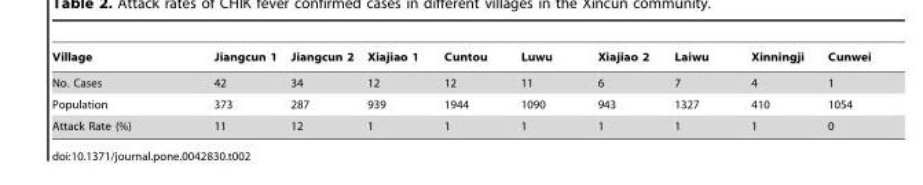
<table><thead><tr><td>Village</td><td>Jiangcun 1</td><td>Jiangcun 2</td><td>Xiajiao 1</td><td>Cuntou</td><td>Luwu</td><td>Xiajiao 2</td><td>Laiwu</td><td>Xinningji</td><td>Cunwei</td></tr></thead><tbody><tr><td>No. Cases</td><td>42</td><td>34</td><td>12</td><td>12</td><td>11</td><td>6</td><td>7</td><td>4</td><td>1</td></tr><tr><td>Population</td><td>373</td><td>287</td><td>939</td><td>1944</td><td>1090</td><td>943</td><td>1327</td><td>410</td><td>1054</td></tr><tr><td>Attack Rate (%)</td><td>11</td><td>12</td><td>1</td><td>1</td><td>1</td><td>1</td><td>1</td><td>1</td><td>0</td></tr></tbody></table>